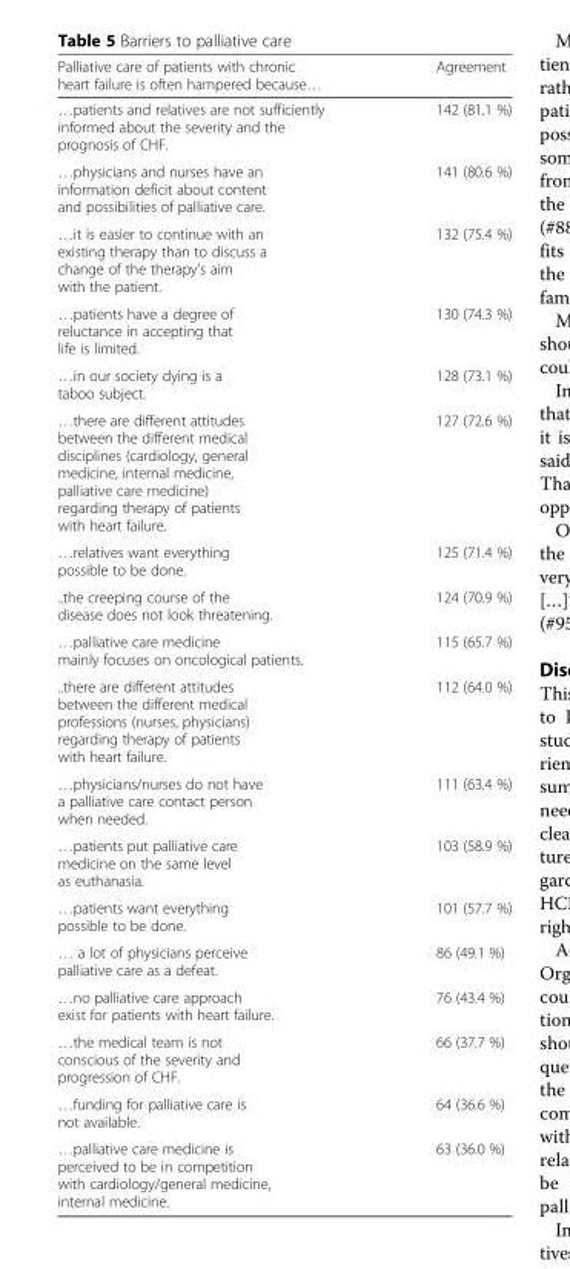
<table><thead><tr><td>Palliative care of patients with chronic heart failure is often hampered because…</td><td>Agreement</td></tr></thead><tbody><tr><td>…patients and relatives are not sufficiently informed about the severity and the prognosis of CHF.</td><td>142 (81.1 %)</td></tr><tr><td>…physicians and nurses have an information deficit about content and possibilities of palliative care.</td><td>141 (80.6 %)</td></tr><tr><td>…it is easier to continue with an existing therapy than to discuss a change of the therapy’s aim with the patient.</td><td>132 (75.4 %)</td></tr><tr><td>…patients have a degree of reluctance in accepting that life is limited.</td><td>130 (74.3 %)</td></tr><tr><td>…in our society dying is a taboo subject.</td><td>128 (73.1 %)</td></tr><tr><td>…there are different attitudes between the different medical disciplines (cardiology, general medicine, internal medicine, palliative care medicine) regarding therapy of patients with heart failure.</td><td>127 (72.6 %)</td></tr><tr><td>…relatives want everything possible to be done.</td><td>125 (71.4 %)</td></tr><tr><td>..the creeping course of the disease does not look threatening.</td><td>124 (70.9 %)</td></tr><tr><td>…palliative care medicine mainly focuses on oncological patients.</td><td>115 (65.7 %)</td></tr><tr><td>..there are different attitudes between the different medical professions (nurses, physicians) regarding therapy of patients with heart failure.</td><td>112 (64.0 %)</td></tr><tr><td>…physicians/nurses do not have a palliative care contact person when needed.</td><td>111 (63.4 %)</td></tr><tr><td>…patients put palliative care medicine on the same level as euthanasia.</td><td>103 (58.9 %)</td></tr><tr><td>…patients want everything possible to be done.</td><td>101 (57.7 %)</td></tr><tr><td>… a lot of physicians perceive palliative care as a defeat.</td><td>86 (49.1 %)</td></tr><tr><td>…no palliative care approach exist for patients with heart failure.</td><td>76 (43.4 %)</td></tr><tr><td>…the medical team is not conscious of the severity and progression of CHF.</td><td>66 (37.7 %)</td></tr><tr><td>…funding for palliative care is not available.</td><td>64 (36.6 %)</td></tr><tr><td>…palliative care medicine is perceived to be in competition with cardiology/general medicine, internal medicine.</td><td>63 (36.0 %)</td></tr></tbody></table>